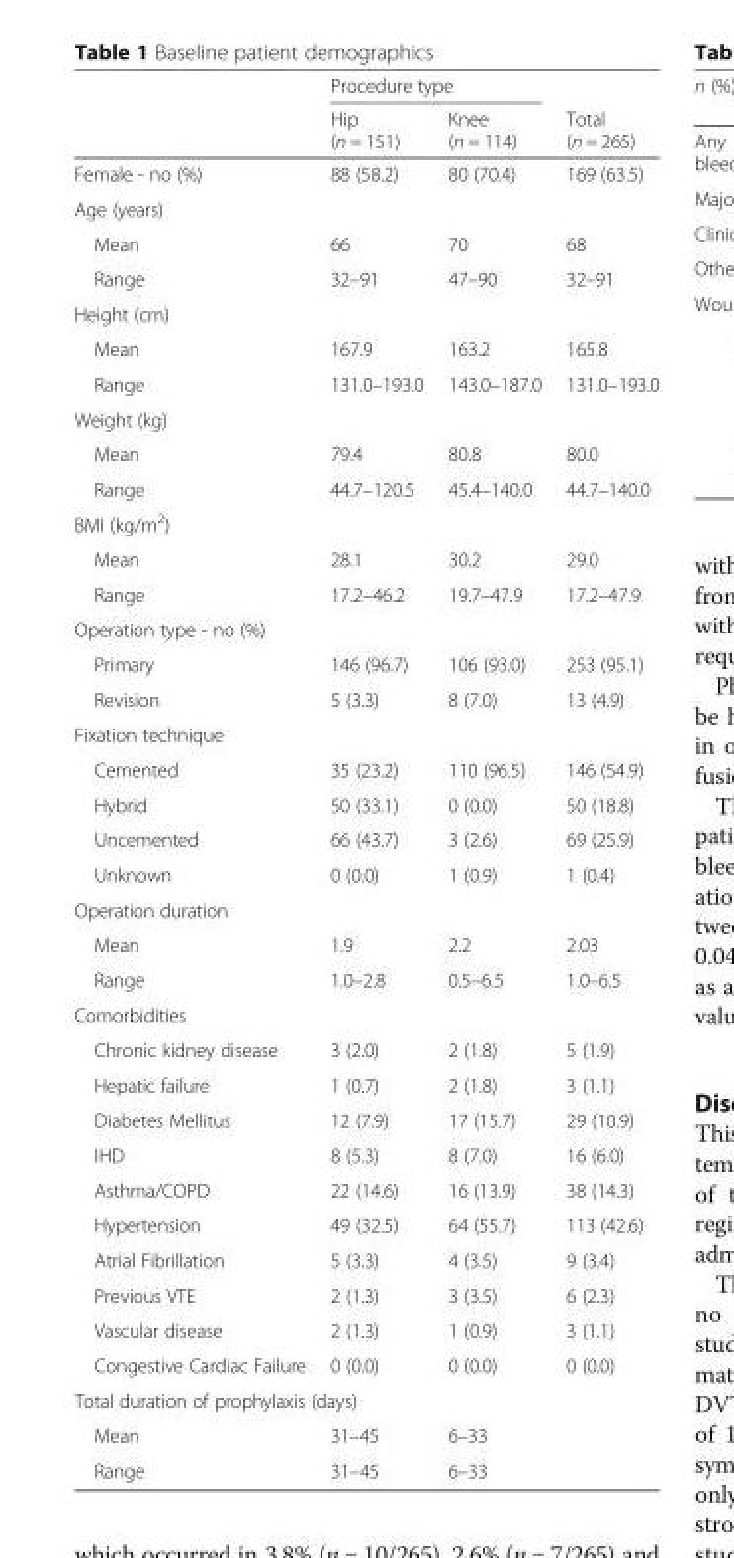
<table><thead><tr><td rowspan="2"></td><td colspan="2">Procedure type</td><td rowspan="2">Total (n = 265)</td></tr><tr><td>Hip (n = 151)</td><td>Knee (n = 114)</td></tr></thead><tbody><tr><td>Female - no (%)</td><td>88 (58.2)</td><td>80 (70.4)</td><td>169 (63.5)</td></tr><tr><td colspan="4">Age (years)</td></tr><tr><td>Mean</td><td>66</td><td>70</td><td>68</td></tr><tr><td>Range</td><td>32–91</td><td>47–90</td><td>32–91</td></tr><tr><td colspan="4">Height (cm)</td></tr><tr><td>Mean</td><td>167.9</td><td>163.2</td><td>165.8</td></tr><tr><td>Range</td><td>131.0–193.0</td><td>143.0–187.0</td><td>131.0–193.0</td></tr><tr><td colspan="4">Weight (kg)</td></tr><tr><td>Mean</td><td>79.4</td><td>80.8</td><td>80.0</td></tr><tr><td>Range</td><td>44.7–120.5</td><td>45.4–140.0</td><td>44.7–140.0</td></tr><tr><td colspan="4">BMI (kg/m<sup>2</sup>)</td></tr><tr><td>Mean</td><td>28.1</td><td>30.2</td><td>29.0</td></tr><tr><td>Range</td><td>17.2–46.2</td><td>19.7–47.9</td><td>17.2–47.9</td></tr><tr><td colspan="4">Operation type - no (%)</td></tr><tr><td>Primary</td><td>146 (96.7)</td><td>106 (93.0)</td><td>253 (95.1)</td></tr><tr><td>Revision</td><td>5 (3.3)</td><td>8 (7.0)</td><td>13 (4.9)</td></tr><tr><td colspan="4">Fixation technique</td></tr><tr><td>Cemented</td><td>35 (23.2)</td><td>110 (96.5)</td><td>146 (54.9)</td></tr><tr><td>Hybrid</td><td>50 (33.1)</td><td>0 (0.0)</td><td>50 (18.8)</td></tr><tr><td>Uncemented</td><td>66 (43.7)</td><td>3 (2.6)</td><td>69 (25.9)</td></tr><tr><td>Unknown</td><td>0 (0.0)</td><td>1 (0.9)</td><td>1 (0.4)</td></tr><tr><td colspan="4">Operation duration</td></tr><tr><td>Mean</td><td>1.9</td><td>2.2</td><td>2.03</td></tr><tr><td>Range</td><td>1.0–2.8</td><td>0.5–6.5</td><td>1.0–6.5</td></tr><tr><td colspan="4">Comorbidities</td></tr><tr><td>Chronic kidney disease</td><td>3 (2.0)</td><td>2 (1.8)</td><td>5 (1.9)</td></tr><tr><td>Hepatic failure</td><td>1 (0.7)</td><td>2 (1.8)</td><td>3 (1.1)</td></tr><tr><td>Diabetes Mellitus</td><td>12 (7.9)</td><td>17 (15.7)</td><td>29 (10.9)</td></tr><tr><td>IHD</td><td>8 (5.3)</td><td>8 (7.0)</td><td>16 (6.0)</td></tr><tr><td>Asthma/COPD</td><td>22 (14.6)</td><td>16 (13.9)</td><td>38 (14.3)</td></tr><tr><td>Hypertension</td><td>49 (32.5)</td><td>64 (55.7)</td><td>113 (42.6)</td></tr><tr><td>Atrial Fibrillation</td><td>5 (3.3)</td><td>4 (3.5)</td><td>9 (3.4)</td></tr><tr><td>Previous VTE</td><td>2 (1.3)</td><td>3 (3.5)</td><td>6 (2.3)</td></tr><tr><td>Vascular disease</td><td>2 (1.3)</td><td>1 (0.9)</td><td>3 (1.1)</td></tr><tr><td>Congestive Cardiac Failure</td><td>0 (0.0)</td><td>0 (0.0)</td><td>0 (0.0)</td></tr><tr><td colspan="4">Total duration of prophylaxis (days)</td></tr><tr><td>Mean</td><td>31–45</td><td>6–33</td><td></td></tr><tr><td>Range</td><td>31–45</td><td>6–33</td><td></td></tr></tbody></table>